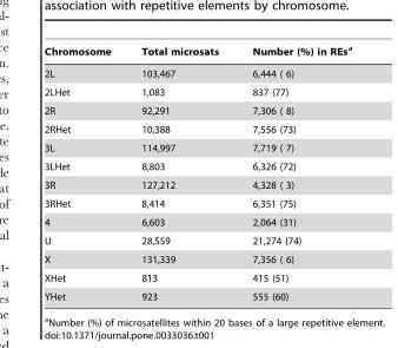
<table><thead><tr><td>Chromosome</td><td>Total microsats</td><td>Number (%) in REs<sup>a</sup></td></tr></thead><tbody><tr><td>2L</td><td>103,467</td><td>6,444 ( 6)</td></tr><tr><td>2LHet</td><td>1,083</td><td>837 (77)</td></tr><tr><td>2R</td><td>92,291</td><td>7,306 ( 8)</td></tr><tr><td>2RHet</td><td>10,388</td><td>7,556 (73)</td></tr><tr><td>3L</td><td>114,997</td><td>7,719 ( 7)</td></tr><tr><td>3LHet</td><td>8,803</td><td>6,326 (72)</td></tr><tr><td>3R</td><td>127,212</td><td>4,328 ( 3)</td></tr><tr><td>3RHet</td><td>8,414</td><td>6,351 (75)</td></tr><tr><td>4</td><td>6,603</td><td>2,064 (31)</td></tr><tr><td>U</td><td>28,559</td><td>21,274 (74)</td></tr><tr><td>X</td><td>131,339</td><td>7,356 ( 6)</td></tr><tr><td>XHet</td><td>813</td><td>415 (51)</td></tr><tr><td>YHet</td><td>923</td><td>555 (60)</td></tr></tbody></table>